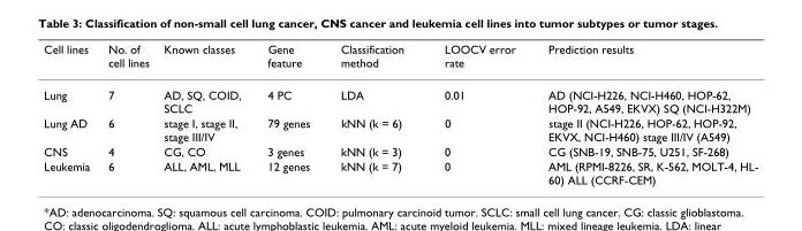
<table><thead><tr><td>Cell lines</td><td>No. of cell lines</td><td>Known classes</td><td>Gene feature</td><td>Classification method</td><td>LOOCV error rate</td><td>Prediction results</td></tr></thead><tbody><tr><td>Lung</td><td>7</td><td>AD, SQ, COID, SCLC</td><td>4 PC</td><td>LDA</td><td>0.01</td><td>AD (NCI-H226, NCI-H460, HOP-62, HOP-92, A549, EKVX) SQ (NCI-H322M)</td></tr><tr><td>Lung AD</td><td>6</td><td>stage I, stage II, stage III/IV</td><td>79 genes</td><td>kNN (k = 6)</td><td>0</td><td>stage II (NCI-H226, HOP-62, HOP-92, EKVX, NCI-H460) stage III/IV (A549)</td></tr><tr><td>CNS</td><td>4</td><td>CG, CO</td><td>3 genes</td><td>kNN (k = 3)</td><td>0</td><td>CG (SNB-19, SNB-75, U251, SF-268)</td></tr><tr><td>Leukemia</td><td>6</td><td>ALL, AML, MLL</td><td>12 genes</td><td>kNN (k = 7)</td><td>0</td><td>AML (RPMI-8226, SR, K-562, MOLT-4, HL- 60) ALL (CCRF-CEM)</td></tr></tbody></table>